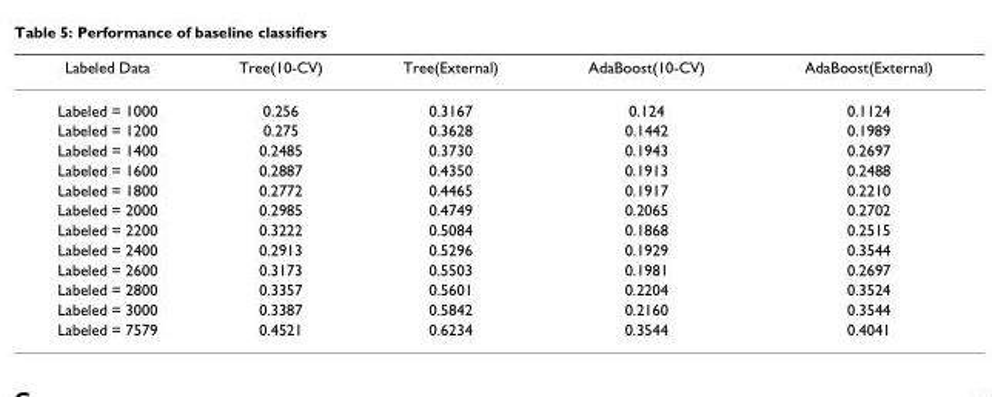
<table><thead><tr><td>Labeled Data</td><td>Tree(10-CV)</td><td>Tree(External)</td><td>AdaBoost(10-CV)</td><td>AdaBoost(External)</td></tr></thead><tbody><tr><td>Labeled = 1000</td><td>0.256</td><td>0.3167</td><td>0.124</td><td>0.1124</td></tr><tr><td>Labeled = 1200</td><td>0.275</td><td>0.3628</td><td>0.1442</td><td>0.1989</td></tr><tr><td>Labeled = 1400</td><td>0.2485</td><td>0.3730</td><td>0.1943</td><td>0.2697</td></tr><tr><td>Labeled = 1600</td><td>0.2887</td><td>0.4350</td><td>0.1913</td><td>0.2488</td></tr><tr><td>Labeled = 1800</td><td>0.2772</td><td>0.4465</td><td>0.1917</td><td>0.2210</td></tr><tr><td>Labeled = 2000</td><td>0.2985</td><td>0.4749</td><td>0.2065</td><td>0.2702</td></tr><tr><td>Labeled = 2200</td><td>0.3222</td><td>0.5084</td><td>0.1868</td><td>0.2515</td></tr><tr><td>Labeled = 2400</td><td>0.2913</td><td>0.5296</td><td>0.1929</td><td>0.3544</td></tr><tr><td>Labeled = 2600</td><td>0.3173</td><td>0.5503</td><td>0.1981</td><td>0.2697</td></tr><tr><td>Labeled = 2800</td><td>0.3357</td><td>0.5601</td><td>0.2204</td><td>0.3524</td></tr><tr><td>Labeled = 3000</td><td>0.3387</td><td>0.5842</td><td>0.2160</td><td>0.3544</td></tr><tr><td>Labeled = 7579</td><td>0.4521</td><td>0.6234</td><td>0.3544</td><td>0.4041</td></tr></tbody></table>